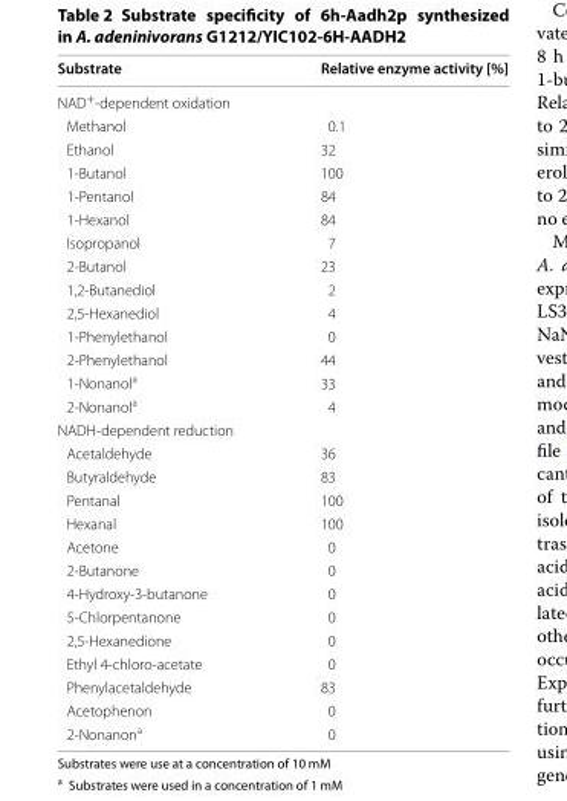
<table><thead><tr><td>Substrate</td><td>Relative enzyme activity [%]</td></tr></thead><tbody><tr><td colspan="2">NAD<sup>+</sup>-dependent oxidation</td></tr><tr><td>Methanol</td><td>0.1</td></tr><tr><td>Ethanol</td><td>32</td></tr><tr><td>1-Butanol</td><td>100</td></tr><tr><td>1-Pentanol</td><td>84</td></tr><tr><td>1-Hexanol</td><td>84</td></tr><tr><td>Isopropanol</td><td>7</td></tr><tr><td>2-Butanol</td><td>23</td></tr><tr><td>1,2-Butanediol</td><td>2</td></tr><tr><td>2,5-Hexanediol</td><td>4</td></tr><tr><td>1-Phenylethanol</td><td>0</td></tr><tr><td>2-Phenylethanol</td><td>44</td></tr><tr><td>1-Nonanol<sup>a</sup></td><td>33</td></tr><tr><td>2-Nonanol<sup>a</sup></td><td>4</td></tr><tr><td colspan="2">NADH-dependent reduction</td></tr><tr><td>Acetaldehyde</td><td>36</td></tr><tr><td>Butyraldehyde</td><td>83</td></tr><tr><td>Pentanal</td><td>100</td></tr><tr><td>Hexanal</td><td>100</td></tr><tr><td>Acetone</td><td>0</td></tr><tr><td>2-Butanone</td><td>0</td></tr><tr><td>4-Hydroxy-3-butanone</td><td>0</td></tr><tr><td>5-Chlorpentanone</td><td>0</td></tr><tr><td>2,5-Hexanedione</td><td>0</td></tr><tr><td>Ethyl 4-chloro-acetate</td><td>0</td></tr><tr><td>Phenylacetaldehyde</td><td>83</td></tr><tr><td>Acetophenon</td><td>0</td></tr><tr><td>2-Nonanon<sup>a</sup></td><td>0</td></tr></tbody></table>